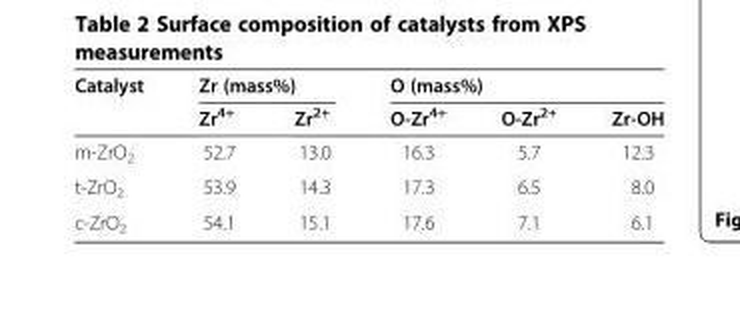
<table><thead><tr><td rowspan="2">Catalyst</td><td colspan="2">Zr (mass%)</td><td colspan="3">O (mass%)</td></tr><tr><td>Zr<sup>4+</sup></td><td>Zr<sup>2+</sup></td><td>O-Zr<sup>4+</sup></td><td>O-Zr<sup>2+</sup></td><td>Zr-OH</td></tr></thead><tbody><tr><td>m-ZrO<sub>2</sub></td><td>52.7</td><td>13.0</td><td>16.3</td><td>5.7</td><td>12.3</td></tr><tr><td>t-ZrO<sub>2</sub></td><td>53.9</td><td>14.3</td><td>17.3</td><td>6.5</td><td>8.0</td></tr><tr><td>c-ZrO<sub>2</sub></td><td>54.1</td><td>15.1</td><td>17.6</td><td>7.1</td><td>6.1</td></tr></tbody></table>